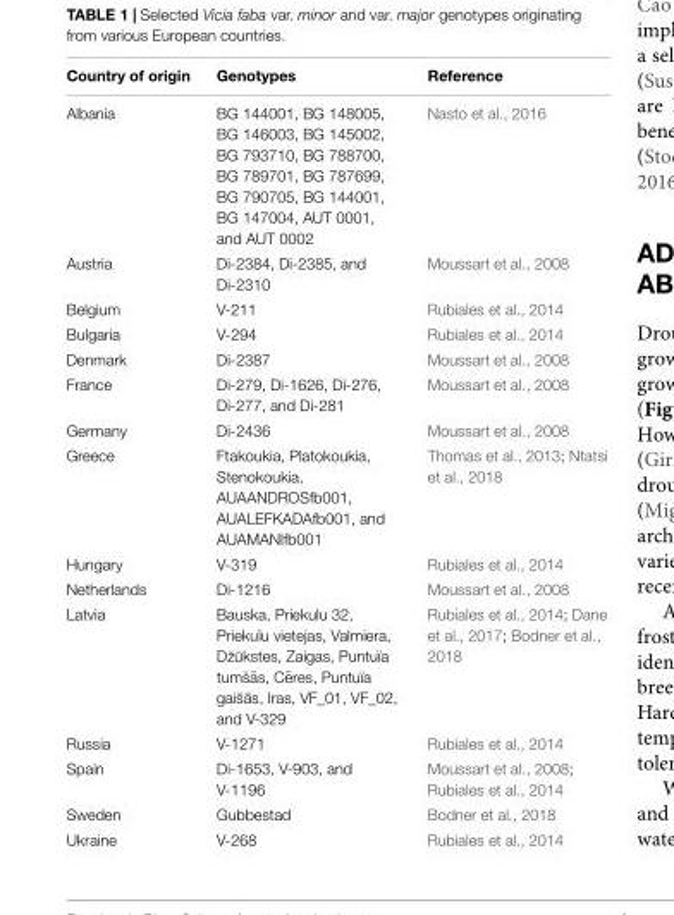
<table><thead><tr><td>Country of origin</td><td>Genotypes</td><td>Reference</td></tr></thead><tbody><tr><td>Albania</td><td>BG 144001, BG 148005, BG 146003, BG 145002, BG 793710, BG 788700, BG 789701, BG 787699, BG 790705, BG 144001, BG 147004, AUT 0001, and AUT 0002</td><td>Nasto et al., 2016</td></tr><tr><td>Austria</td><td>Di-2384, Di-2385, and Di-2310</td><td>Moussart et al., 2008</td></tr><tr><td>Belgium</td><td>V-211</td><td>Rubiales et al., 2014</td></tr><tr><td>Bulgaria</td><td>V-294</td><td>Rubiales et al., 2014</td></tr><tr><td>Denmark</td><td>Di-2387</td><td>Moussart et al., 2008</td></tr><tr><td>France</td><td>Di-279, Di-1626, Di-276, Di-277, and Di-281</td><td>Moussart et al., 2008</td></tr><tr><td>Germany</td><td>Di-2436</td><td>Moussart et al., 2008</td></tr><tr><td>Greece</td><td>Ftakoukia, Platokoukia, Stenokoukia, AUAANDROSfb001, AUALEFKADAfb001, and AUAMANIfb001</td><td>Thomas et al., 2013; Ntatsi et al., 2018</td></tr><tr><td>Hungary</td><td>V-319</td><td>Rubiales et al., 2014</td></tr><tr><td>Netherlands</td><td>Di-1216</td><td>Moussart et al., 2008</td></tr><tr><td>Latvia</td><td>Bauska, Priekulu 32, Priekuïu vietejas, Valmiera, D˘z ¯ukstes, Zaigas, Puntuïa tum˘s ¯as, C ¯eres, Puntuïa gai˘s ¯as, Iras, VF_01, VF_02, and V-329</td><td>Rubiales et al., 2014; Dane et al., 2017; Bodner et al., 2018</td></tr><tr><td>Russia</td><td>V-1271</td><td>Rubiales et al., 2014</td></tr><tr><td>Spain</td><td>Di-1653, V-903, and V-1196</td><td>Moussart et al., 2008; Rubiales et al., 2014</td></tr><tr><td>Sweden</td><td>Gubbestad</td><td>Bodner et al., 2018</td></tr><tr><td>Ukraine</td><td>V-268</td><td>Rubiales et al., 2014</td></tr></tbody></table>